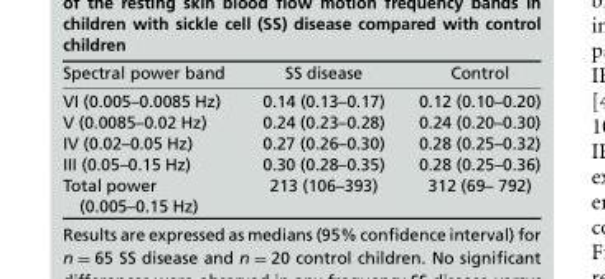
<table><thead><tr><td>Spectral power band</td><td>SS disease</td><td>Control</td></tr></thead><tbody><tr><td>VI (0.005–0.0085 Hz)</td><td>0.14 (0.13–0.17)</td><td>0.12 (0.10–0.20)</td></tr><tr><td>V (0.0085–0.02 Hz)</td><td>0.24 (0.23–0.28)</td><td>0.24 (0.20–0.30)</td></tr><tr><td>IV (0.02–0.05 Hz)</td><td>0.27 (0.26–0.30)</td><td>0.28 (0.25–0.32)</td></tr><tr><td>III (0.05–0.15 Hz)</td><td>0.30 (0.28–0.35)</td><td>0.28 (0.25–0.36)</td></tr><tr><td>Total power (0.005–0.15 Hz)</td><td>213 (106–393)</td><td>312 (69– 792)</td></tr></tbody></table>